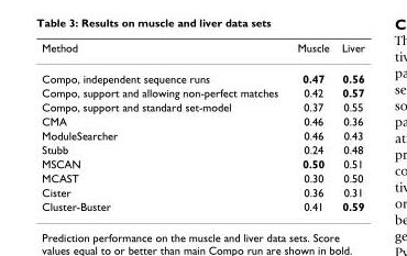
<table><thead><tr><td>Method</td><td>Muscle</td><td>Liver</td></tr></thead><tbody><tr><td>Compo, independent sequence runs</td><td>0.47</td><td>0.56</td></tr><tr><td>Compo, support and allowing non-perfect matches</td><td>0.42</td><td>0.57</td></tr><tr><td>Compo, support and standard set-model</td><td>0.37</td><td>0.55</td></tr><tr><td>CMA</td><td>0.46</td><td>0.36</td></tr><tr><td>ModuleSearcher</td><td>0.46</td><td>0.43</td></tr><tr><td>Stubb</td><td>0.24</td><td>0.48</td></tr><tr><td>MSCAN</td><td>0.50</td><td>0.51</td></tr><tr><td>MCAST</td><td>0.30</td><td>0.50</td></tr><tr><td>Cister</td><td>0.36</td><td>0.31</td></tr><tr><td>Cluster-Buster</td><td>0.41</td><td>0.59</td></tr></tbody></table>